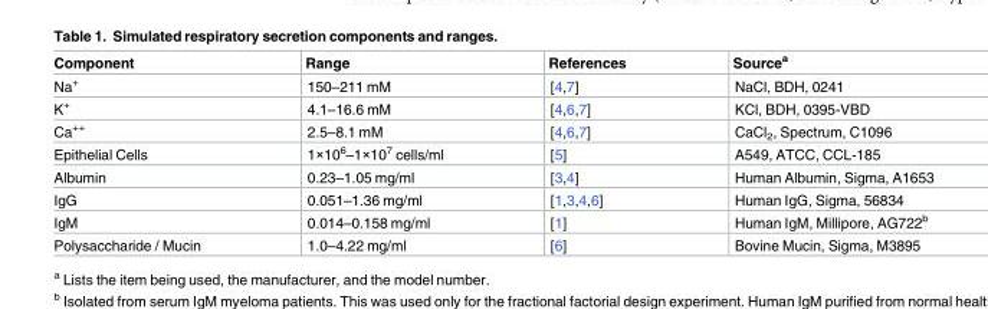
<table><thead><tr><td>Component</td><td>Range</td><td>References</td><td>Source<sup>a</sup></td></tr></thead><tbody><tr><td>Na<sup>+</sup></td><td>150–211 mM</td><td>[4,7]</td><td>NaCl, BDH, 0241</td></tr><tr><td>K<sup>+</sup></td><td>4.1–16.6 mM</td><td>[4,6,7]</td><td>KCl, BDH, 0395-VBD</td></tr><tr><td>Ca<sup>++</sup></td><td>2.5–8.1 mM</td><td>[4,6,7]</td><td>CaCl<sub>2</sub>, Spectrum, C1096</td></tr><tr><td>Epithelial Cells</td><td>1×10<sup>6</sup>–1×10<sup>7</sup> cells/ml</td><td>[5]</td><td>A549, ATCC, CCL-185</td></tr><tr><td>Albumin</td><td>0.23–1.05 mg/ml</td><td>[3,4]</td><td>Human Albumin, Sigma, A1653</td></tr><tr><td>IgG</td><td>0.051–1.36 mg/ml</td><td>[1,3,4,6]</td><td>Human IgG, Sigma, 56834</td></tr><tr><td>IgM</td><td>0.014–0.158 mg/ml</td><td>[1]</td><td>Human IgM, Millipore, AG722<sup>b</sup></td></tr><tr><td>Polysaccharide / Mucin</td><td>1.0–4.22 mg/ml</td><td>[6]</td><td>Bovine Mucin, Sigma, M3895</td></tr></tbody></table>